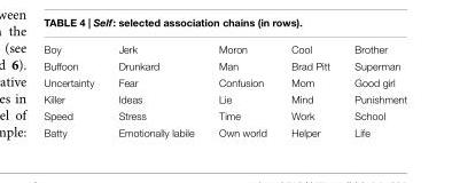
<table><tbody><tr><td>Boy</td><td>Jerk</td><td>Moron</td><td>Cool</td><td>Brother</td></tr><tr><td>Buffoon</td><td>Drunkard</td><td>Man</td><td>Brad Pitt</td><td>Superman</td></tr><tr><td>Uncertainty</td><td>Fear</td><td>Confusion</td><td>Mom</td><td>Good girl</td></tr><tr><td>Killer</td><td>Ideas</td><td>Lie</td><td>Mind</td><td>Punishment</td></tr><tr><td>Speed</td><td>Stress</td><td>Time</td><td>Work</td><td>School</td></tr><tr><td>Batty</td><td>Emotionally labile</td><td>Own world</td><td>Helper</td><td>Life</td></tr></tbody></table>